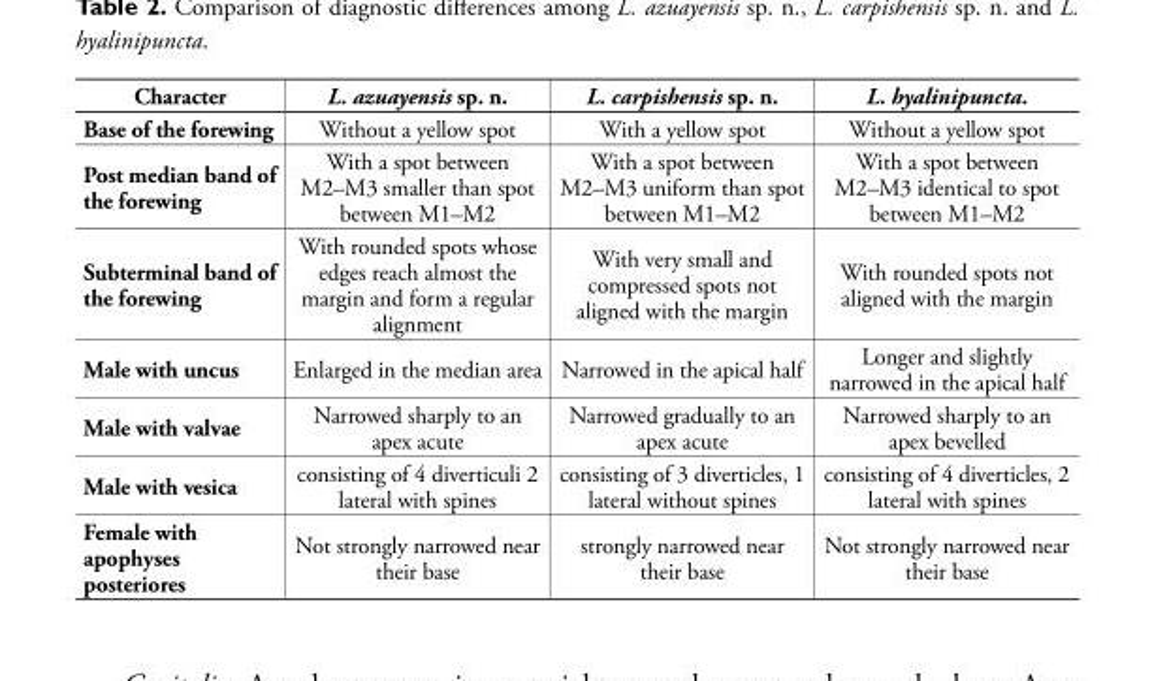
<table><tbody><tr><td>Character</td><td>L. azuayensis sp. n.</td><td>L. carpishensis sp. n.</td><td>L. hyalinipuncta.</td></tr><tr><td>Base of the forewing</td><td>Without a yellow spot</td><td>With a yellow spot</td><td>Without a yellow spot</td></tr><tr><td>Post median band of the forewing</td><td>With a spot between M2–M3 smaller than spot between M1–M2</td><td>With a spot between M2–M3 uniform than spot between M1–M2</td><td>With a spot between M2–M3 identical to spot between M1–M2</td></tr><tr><td>Subterminal band of the forewing</td><td>With rounded spots whose edges reach almost the margin and form a regular alignment</td><td>With very small and compressed spots not aligned with the margin</td><td>With rounded spots not aligned with the margin</td></tr><tr><td>Male with uncus</td><td>Enlarged in the median area</td><td>Narrowed in the apical half</td><td>Longer and slightly narrowed in the apical half</td></tr><tr><td>Male with valvae</td><td>Narrowed sharply to an apex acute</td><td>Narrowed gradually to an apex acute</td><td>Narrowed sharply to an apex bevelled</td></tr><tr><td>Male with vesica</td><td>consisting of 4 diverticuli 2 lateral with spines</td><td>consisting of 3 diverticles, 1 lateral without spines</td><td>consisting of 4 diverticles, 2 lateral with spines</td></tr><tr><td>Female with apophyses posteriores</td><td>Not strongly narrowed near their base</td><td>strongly narrowed near their base</td><td>Not strongly narrowed near their base</td></tr></tbody></table>